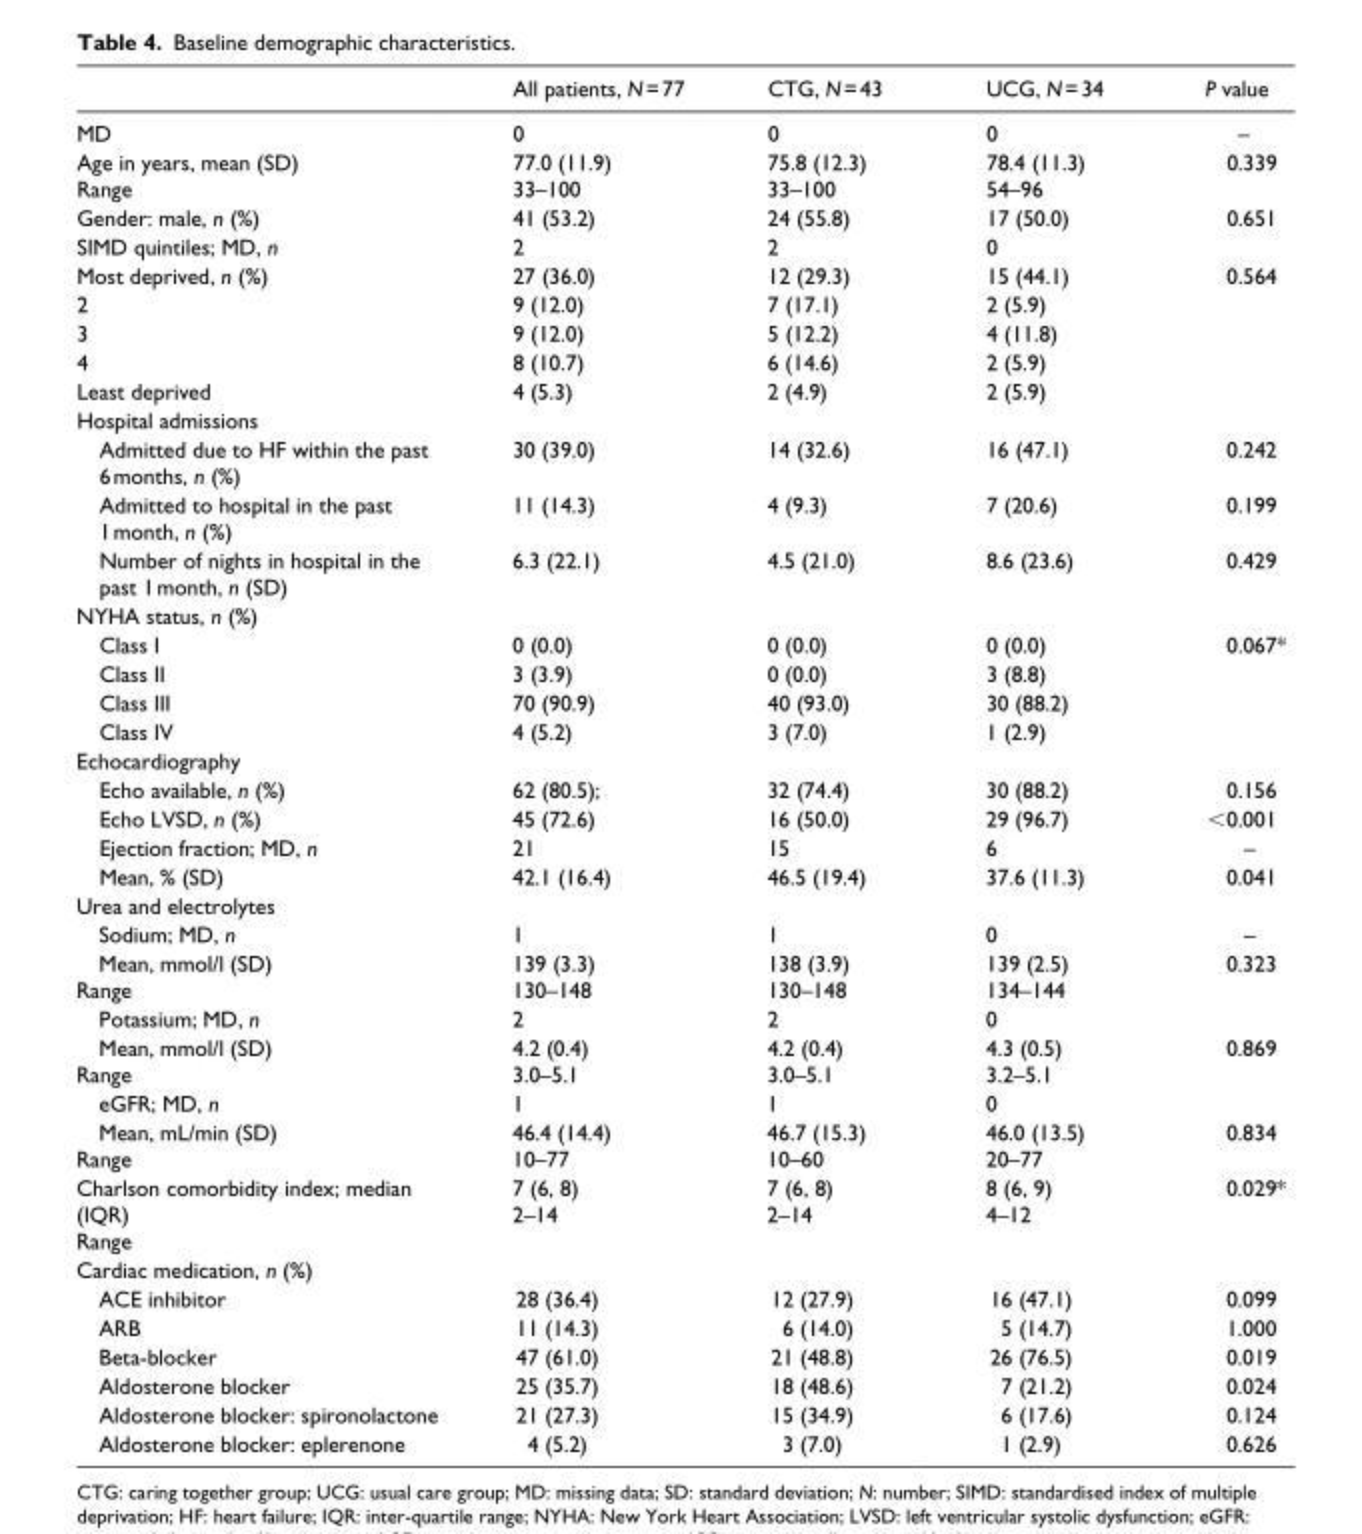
<table><thead><tr><td></td><td>All patients, N = 77</td><td>CTG, N = 43</td><td>UCG, N = 34</td><td>P value</td></tr></thead><tbody><tr><td>MD</td><td>0</td><td>0</td><td>0</td><td>–</td></tr><tr><td>Age in years, mean (SD) Range</td><td>77.0 (11.9) 33–100</td><td>75.8 (12.3) 33–100</td><td>78.4 (11.3) 54–96</td><td>0.339</td></tr><tr><td>Gender: male, n (%)</td><td>41 (53.2)</td><td>24 (55.8)</td><td>17 (50.0)</td><td>0.651</td></tr><tr><td>SIMD quintiles; MD, n</td><td>2</td><td>2</td><td>0</td><td></td></tr><tr><td>Most deprived, n (%)</td><td>27 (36.0)</td><td>12 (29.3)</td><td>15 (44.1)</td><td>0.564</td></tr><tr><td>2</td><td>9 (12.0)</td><td>7 (17.1)</td><td>2 (5.9)</td><td></td></tr><tr><td>3</td><td>9 (12.0)</td><td>5 (12.2)</td><td>4 (11.8)</td><td></td></tr><tr><td>4</td><td>8 (10.7)</td><td>6 (14.6)</td><td>2 (5.9)</td><td></td></tr><tr><td>Least deprived</td><td>4 (5.3)</td><td>2 (4.9)</td><td>2 (5.9)</td><td></td></tr><tr><td colspan="5">Hospital admissions</td></tr><tr><td>Admitted due to HF within the past 6 months, n (%)</td><td>30 (39.0)</td><td>14 (32.6)</td><td>16 (47.1)</td><td>0.242</td></tr><tr><td>Admitted to hospital in the past 1 month, n (%)</td><td>11 (14.3)</td><td>4 (9.3)</td><td>7 (20.6)</td><td>0.199</td></tr><tr><td>Number of nights in hospital in the past 1 month, n (SD)</td><td>6.3 (22.1)</td><td>4.5 (21.0)</td><td>8.6 (23.6)</td><td>0.429</td></tr><tr><td colspan="5">NYHA status, n (%)</td></tr><tr><td>Class I</td><td>0 (0.0)</td><td>0 (0.0)</td><td>0 (0.0)</td><td>0.067*</td></tr><tr><td>Class II</td><td>3 (3.9)</td><td>0 (0.0)</td><td>3 (8.8)</td><td></td></tr><tr><td>Class III</td><td>70 (90.9)</td><td>40 (93.0)</td><td>30 (88.2)</td><td></td></tr><tr><td>Class IV</td><td>4 (5.2)</td><td>3 (7.0)</td><td>1 (2.9)</td><td></td></tr><tr><td colspan="5">Echocardiography</td></tr><tr><td>Echo available, n (%)</td><td>62 (80.5);</td><td>32 (74.4)</td><td>30 (88.2)</td><td>0.156</td></tr><tr><td>Echo LVSD, n (%)</td><td>45 (72.6)</td><td>16 (50.0)</td><td>29 (96.7)</td><td>&lt;0.001</td></tr><tr><td>Ejection fraction; MD, n</td><td>21</td><td>15</td><td>6</td><td>–</td></tr><tr><td>Mean, % (SD)</td><td>42.1 (16.4)</td><td>46.5 (19.4)</td><td>37.6 (11.3)</td><td>0.041</td></tr><tr><td colspan="5">Urea and electrolytes</td></tr><tr><td>Sodium; MD, n</td><td>1</td><td>1</td><td>0</td><td>–</td></tr><tr><td>Mean, mmol/l (SD) Range</td><td>139 (3.3) 130–148</td><td>138 (3.9) 130–148</td><td>139 (2.5) 134–144</td><td>0.323</td></tr><tr><td>Potassium; MD, n</td><td>2</td><td>2</td><td>0</td><td></td></tr><tr><td>Mean, mmol/l (SD) Range</td><td>4.2 (0.4) 3.0–5.1</td><td>4.2 (0.4) 3.0–5.1</td><td>4.3 (0.5) 3.2–5.1</td><td>0.869</td></tr><tr><td>eGFR; MD, n</td><td>1</td><td>1</td><td>0</td><td></td></tr><tr><td>Mean, mL/min (SD) Range</td><td>46.4 (14.4) 10–77</td><td>46.7 (15.3) 10–60</td><td>46.0 (13.5) 20–77</td><td>0.834</td></tr><tr><td>Charlson comorbidity index; median (IQR) Range</td><td>7 (6, 8) 2–14</td><td>7 (6, 8) 2–14</td><td>8 (6, 9) 4–12</td><td>0.029*</td></tr><tr><td colspan="5">Cardiac medication, n (%)</td></tr><tr><td>ACE inhibitor</td><td>28 (36.4)</td><td>12 (27.9)</td><td>16 (47.1)</td><td>0.099</td></tr><tr><td>ARB</td><td>11 (14.3)</td><td>6 (14.0)</td><td>5 (14.7)</td><td>1.000</td></tr><tr><td>Beta-blocker</td><td>47 (61.0)</td><td>21 (48.8)</td><td>26 (76.5)</td><td>0.019</td></tr><tr><td>Aldosterone blocker</td><td>25 (35.7)</td><td>18 (48.6)</td><td>7 (21.2)</td><td>0.024</td></tr><tr><td>Aldosterone blocker: spironolactone</td><td>21 (27.3)</td><td>15 (34.9)</td><td>6 (17.6)</td><td>0.124</td></tr><tr><td>Aldosterone blocker: eplerenone</td><td>4 (5.2)</td><td>3 (7.0)</td><td>1 (2.9)</td><td>0.626</td></tr></tbody></table>